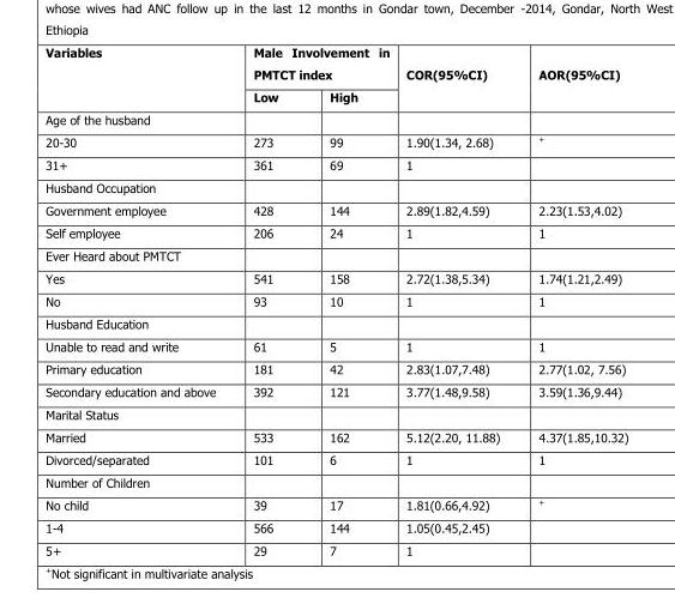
<table><thead><tr><td rowspan="2">Variables</td><td colspan="2">Male Involvement in PMTCT index</td><td rowspan="2">COR(95%CI)</td><td rowspan="2">AOR(95%CI)</td></tr><tr><td>Low</td><td>High</td></tr></thead><tbody><tr><td colspan="5">Age of the husband</td></tr><tr><td>20-30</td><td>273</td><td>99</td><td>1.90(1.34, 2.68)</td><td><sup>+</sup></td></tr><tr><td>31<sup>+</sup></td><td>361</td><td>69</td><td>1</td><td></td></tr><tr><td colspan="5">Husband Occupation</td></tr><tr><td>Government employee</td><td>428</td><td>144</td><td>2.89(1.82,4.59)</td><td>2.23(1.53,4.02)</td></tr><tr><td>Self employee</td><td>206</td><td>24</td><td>1</td><td>1</td></tr><tr><td colspan="5">Ever Heard about PMTCT</td></tr><tr><td>Yes</td><td>541</td><td>158</td><td>2.72(1.38,5.34)</td><td>1.74(1.21,2.49)</td></tr><tr><td>No</td><td>93</td><td>10</td><td>1</td><td>1</td></tr><tr><td colspan="5">Husband Education</td></tr><tr><td>Unable to read and write</td><td>61</td><td>5</td><td>1</td><td>1</td></tr><tr><td>Primary education</td><td>181</td><td>42</td><td>2.83(1.07,7.48)</td><td>2.77(1.02, 7.56)</td></tr><tr><td>Secondary education and above</td><td>392</td><td>121</td><td>3.77(1.48,9.58)</td><td>3.59(1.36,9.44)</td></tr><tr><td colspan="5">Marital Status</td></tr><tr><td>Married</td><td>533</td><td>162</td><td>5.12(2.20, 11.88)</td><td>4.37(1.85,10.32)</td></tr><tr><td>Divorced/separated</td><td>101</td><td>6</td><td>1</td><td>1</td></tr><tr><td colspan="5">Number of Children</td></tr><tr><td>No child</td><td>39</td><td>17</td><td>1.81(0.66,4.92)</td><td><sup>+</sup></td></tr><tr><td>1-4</td><td>566</td><td>144</td><td>1.05(0.45,2.45)</td><td></td></tr><tr><td>5<sup>+</sup></td><td>29</td><td>7</td><td>1</td><td></td></tr></tbody></table>